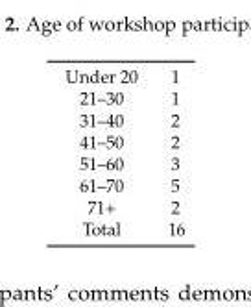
<table><tbody><tr><td>Under 20</td><td>1</td></tr><tr><td>21–30</td><td>1</td></tr><tr><td>31–40</td><td>2</td></tr><tr><td>41–50</td><td>2</td></tr><tr><td>51–60</td><td>3</td></tr><tr><td>61–70</td><td>5</td></tr><tr><td>71+</td><td>2</td></tr><tr><td>Total</td><td>16</td></tr></tbody></table>